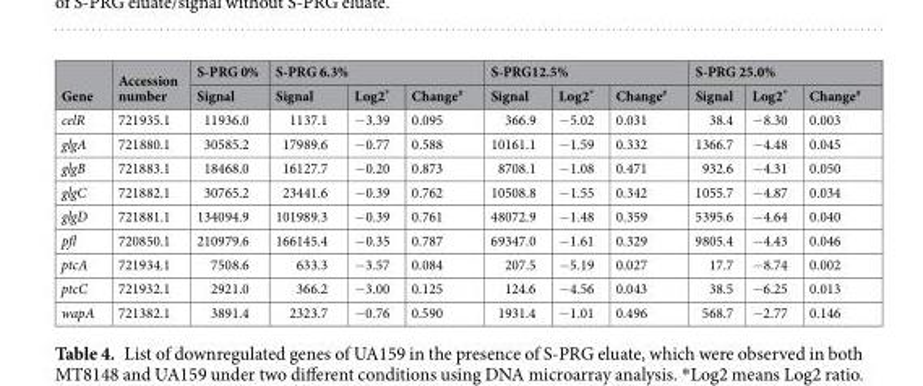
<table><thead><tr><td rowspan="2">Gene</td><td rowspan="2">Accession number</td><td rowspan="2">S-PRG 0% Signal</td><td colspan="3">S-PRG 6.3%</td><td colspan="3">S-PRG12.5%</td><td colspan="3">S-PRG 25.0%</td></tr><tr><td>Signal</td><td>Log2*</td><td>Change<sup>#</sup></td><td>Signal</td><td>Log2*</td><td>Change<sup>#</sup></td><td>Signal</td><td>Log2*</td><td>Change<sup>#</sup></td></tr></thead><tbody><tr><td>celR</td><td>721935.1</td><td>11936.0</td><td>1137.1</td><td>−3.39</td><td>0.095</td><td>366.9</td><td>−5.02</td><td>0.031</td><td>38.4</td><td>−8.30</td><td>0.003</td></tr><tr><td>glgA</td><td>721880.1</td><td>30585.2</td><td>17989.6</td><td>−0.77</td><td>0.588</td><td>10161.1</td><td>−1.59</td><td>0.332</td><td>1366.7</td><td>−4.48</td><td>0.045</td></tr><tr><td>glgB</td><td>721883.1</td><td>18468.0</td><td>16127.7</td><td>−0.20</td><td>0.873</td><td>8708.1</td><td>−1.08</td><td>0.471</td><td>932.6</td><td>−4.31</td><td>0.050</td></tr><tr><td>glgC</td><td>721882.1</td><td>30765.2</td><td>23441.6</td><td>−0.39</td><td>0.762</td><td>10508.8</td><td>−1.55</td><td>0.342</td><td>1055.7</td><td>−4.87</td><td>0.034</td></tr><tr><td>glgD</td><td>721881.1</td><td>134094.9</td><td>101989.3</td><td>−0.39</td><td>0.761</td><td>48072.9</td><td>−1.48</td><td>0.359</td><td>5395.6</td><td>−4.64</td><td>0.040</td></tr><tr><td>pfl</td><td>720850.1</td><td>210979.6</td><td>166145.4</td><td>−0.35</td><td>0.787</td><td>69347.0</td><td>−1.61</td><td>0.329</td><td>9805.4</td><td>−4.43</td><td>0.046</td></tr><tr><td>ptcA</td><td>721934.1</td><td>7508.6</td><td>633.3</td><td>−3.57</td><td>0.084</td><td>207.5</td><td>−5.19</td><td>0.027</td><td>17.7</td><td>−8.74</td><td>0.002</td></tr><tr><td>ptcC</td><td>721932.1</td><td>2921.0</td><td>366.2</td><td>−3.00</td><td>0.125</td><td>124.6</td><td>−4.56</td><td>0.043</td><td>38.5</td><td>−6.25</td><td>0.013</td></tr><tr><td>wapA</td><td>721382.1</td><td>3891.4</td><td>2323.7</td><td>−0.76</td><td>0.590</td><td>1931.4</td><td>−1.01</td><td>0.496</td><td>568.7</td><td>−2.77</td><td>0.146</td></tr></tbody></table>